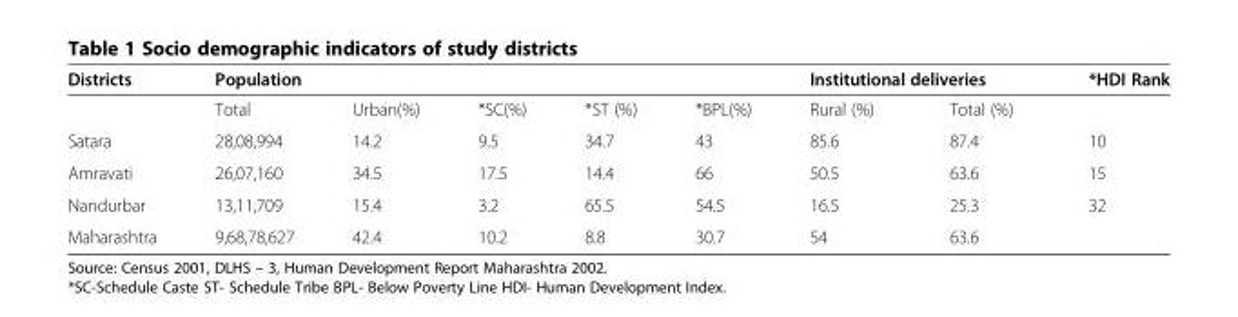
<table><thead><tr><td rowspan="2">Districts</td><td colspan="5">Population</td><td colspan="2">Institutional deliveries</td><td rowspan="2">*HDI Rank</td></tr><tr><td>Total</td><td>Urban(%)</td><td>*SC(%)</td><td>*ST (%)</td><td>*BPL(%)</td><td>Rural (%)</td><td>Total (%)</td></tr></thead><tbody><tr><td>Satara</td><td>28,08,994</td><td>14.2</td><td>9.5</td><td>34.7</td><td>43</td><td>85.6</td><td>87.4</td><td>10</td></tr><tr><td>Amravati</td><td>26,07,160</td><td>34.5</td><td>17.5</td><td>14.4</td><td>66</td><td>50.5</td><td>63.6</td><td>15</td></tr><tr><td>Nandurbar</td><td>13,11,709</td><td>15.4</td><td>3.2</td><td>65.5</td><td>54.5</td><td>16.5</td><td>25.3</td><td>32</td></tr><tr><td>Maharashtra</td><td>9,68,78,627</td><td>42.4</td><td>10.2</td><td>8.8</td><td>30.7</td><td>54</td><td>63.6</td><td></td></tr></tbody></table>